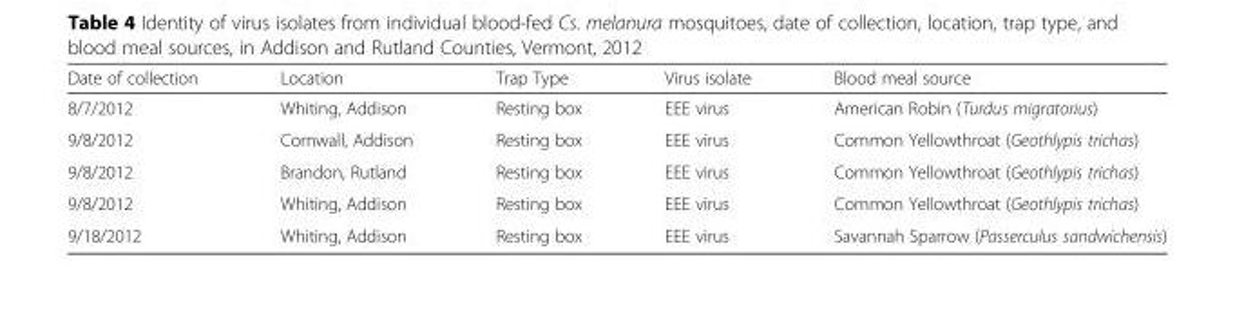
<table><thead><tr><td>Date of collection</td><td>Location</td><td>Trap Type</td><td>Virus isolate</td><td>Blood meal source</td></tr></thead><tbody><tr><td>8/7/2012</td><td>Whiting, Addison</td><td>Resting box</td><td>EEE virus</td><td>American Robin (Turdus migratorius)</td></tr><tr><td>9/8/2012</td><td>Cornwall, Addison</td><td>Resting box</td><td>EEE virus</td><td>Common Yellowthroat (Geothlypis trichas)</td></tr><tr><td>9/8/2012</td><td>Brandon, Rutland</td><td>Resting box</td><td>EEE virus</td><td>Common Yellowthroat (Geothlypis trichas)</td></tr><tr><td>9/8/2012</td><td>Whiting, Addison</td><td>Resting box</td><td>EEE virus</td><td>Common Yellowthroat (Geothlypis trichas)</td></tr><tr><td>9/18/2012</td><td>Whiting, Addison</td><td>Resting box</td><td>EEE virus</td><td>Savannah Sparrow (Passerculus sandwichensis)</td></tr></tbody></table>